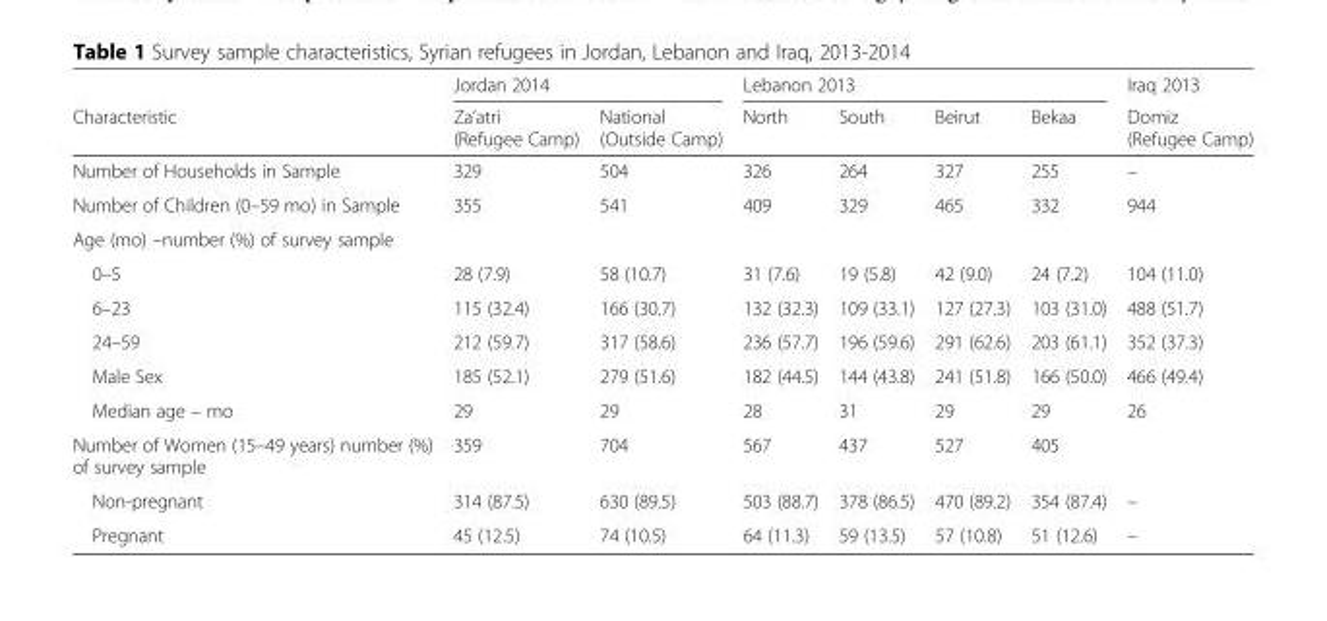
<table><thead><tr><td rowspan="2">Characteristic</td><td colspan="2">Jordan 2014</td><td colspan="4">Lebanon 2013</td><td rowspan="2">Iraq 2013 Domiz (Refugee Camp)</td></tr><tr><td>Za’atri (Refugee Camp)</td><td>National (Outside Camp)</td><td>North</td><td>South</td><td>Beirut</td><td>Bekaa</td></tr></thead><tbody><tr><td>Number of Households in Sample</td><td>329</td><td>504</td><td>326</td><td>264</td><td>327</td><td>255</td><td>–</td></tr><tr><td>Number of Children (0–59 mo) in Sample</td><td>355</td><td>541</td><td>409</td><td>329</td><td>465</td><td>332</td><td>944</td></tr><tr><td colspan="8">Age (mo) –number (%) of survey sample</td></tr><tr><td>0–5</td><td>28 (7.9)</td><td>58 (10.7)</td><td>31 (7.6)</td><td>19 (5.8)</td><td>42 (9.0)</td><td>24 (7.2)</td><td>104 (11.0)</td></tr><tr><td>6–23</td><td>115 (32.4)</td><td>166 (30.7)</td><td>132 (32.3)</td><td>109 (33.1)</td><td>127 (27.3)</td><td>103 (31.0)</td><td>488 (51.7)</td></tr><tr><td>24–59</td><td>212 (59.7)</td><td>317 (58.6)</td><td>236 (57.7)</td><td>196 (59.6)</td><td>291 (62.6)</td><td>203 (61.1)</td><td>352 (37.3)</td></tr><tr><td>Male Sex</td><td>185 (52.1)</td><td>279 (51.6)</td><td>182 (44.5)</td><td>144 (43.8)</td><td>241 (51.8)</td><td>166 (50.0)</td><td>466 (49.4)</td></tr><tr><td>Median age – mo</td><td>29</td><td>29</td><td>28</td><td>31</td><td>29</td><td>29</td><td>26</td></tr><tr><td>Number of Women (15–49 years) number (%) of survey sample</td><td>359</td><td>704</td><td>567</td><td>437</td><td>527</td><td>405</td><td></td></tr><tr><td>Non-pregnant</td><td>314 (87.5)</td><td>630 (89.5)</td><td>503 (88.7)</td><td>378 (86.5)</td><td>470 (89.2)</td><td>354 (87.4)</td><td>–</td></tr><tr><td>Pregnant</td><td>45 (12.5)</td><td>74 (10.5)</td><td>64 (11.3)</td><td>59 (13.5)</td><td>57 (10.8)</td><td>51 (12.6)</td><td>–</td></tr></tbody></table>